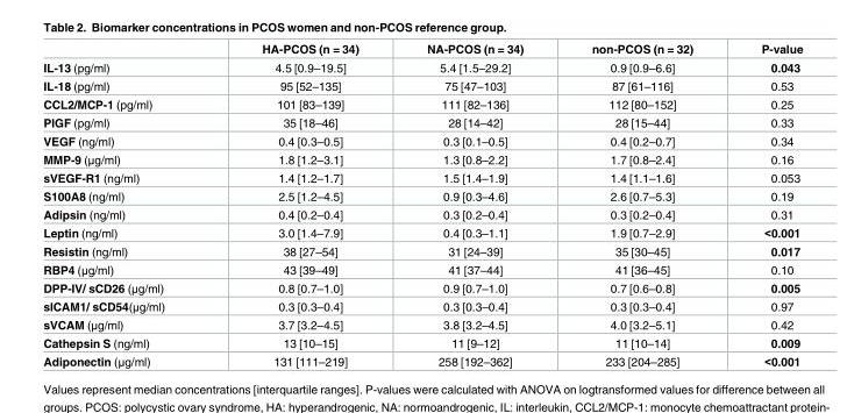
<table><thead><tr><td></td><td>HA-PCOS (n = 34)</td><td>NA-PCOS (n = 34)</td><td>non-PCOS (n = 32)</td><td>P-value</td></tr></thead><tbody><tr><td>IL-13 (pg/ml)</td><td>4.5 [0.9–19.5]</td><td>5.4 [1.5–29.2]</td><td>0.9 [0.9–6.6]</td><td>0.043</td></tr><tr><td>IL-18 (pg/ml)</td><td>95 [52–135]</td><td>75 [47–103]</td><td>87 [61–116]</td><td>0.53</td></tr><tr><td>CCL2/MCP-1 (pg/ml)</td><td>101 [83–139]</td><td>111 [82–136]</td><td>112 [80–152]</td><td>0.25</td></tr><tr><td>PIGF (pg/ml)</td><td>35 [18–46]</td><td>28 [14–42]</td><td>28 [15–44]</td><td>0.33</td></tr><tr><td>VEGF (ng/ml)</td><td>0.4 [0.3–0.5]</td><td>0.3 [0.1–0.5]</td><td>0.4 [0.2–0.7]</td><td>0.34</td></tr><tr><td>MMP-9 (μg/ml)</td><td>1.8 [1.2–3.1]</td><td>1.3 [0.8–2.2]</td><td>1.7 [0.8–2.4]</td><td>0.16</td></tr><tr><td>sVEGF-R1 (ng/ml)</td><td>1.4 [1.2–1.7]</td><td>1.5 [1.4–1.9]</td><td>1.4 [1.1–1.6]</td><td>0.053</td></tr><tr><td>S100A8 (ng/ml)</td><td>2.5 [1.2–4.5]</td><td>0.9 [0.3–4.6]</td><td>2.6 [0.7–5.3]</td><td>0.19</td></tr><tr><td>Adipsin (ng/ml)</td><td>0.4 [0.2–0.4]</td><td>0.3 [0.2–0.4]</td><td>0.3 [0.2–0.4]</td><td>0.31</td></tr><tr><td>Leptin (ng/ml)</td><td>3.0 [1.4–7.9]</td><td>0.4 [0.3–1.1]</td><td>1.9 [0.7–2.9]</td><td>&lt;0.001</td></tr><tr><td>Resistin (ng/ml)</td><td>38 [27–54]</td><td>31 [24–39]</td><td>35 [30–45]</td><td>0.017</td></tr><tr><td>RBP4 (μg/ml)</td><td>43 [39–49]</td><td>41 [37–44]</td><td>41 [36–45]</td><td>0.10</td></tr><tr><td>DPP-IV/ sCD26 (μg/ml)</td><td>0.8 [0.7–1.0]</td><td>0.9 [0.7–1.0]</td><td>0.7 [0.6–0.8]</td><td>0.005</td></tr><tr><td>sICAM1/ sCD54(μg/ml)</td><td>0.3 [0.3–0.4]</td><td>0.3 [0.3–0.4]</td><td>0.3 [0.3–0.4]</td><td>0.97</td></tr><tr><td>sVCAM (μg/ml)</td><td>3.7 [3.2–4.5]</td><td>3.8 [3.2–4.5]</td><td>4.0 [3.2–5.1]</td><td>0.42</td></tr><tr><td>Cathepsin S (ng/ml)</td><td>13 [10–15]</td><td>11 [9–12]</td><td>11 [10–14]</td><td>0.009</td></tr><tr><td>Adiponectin (μg/ml)</td><td>131 [111–219]</td><td>258 [192–362]</td><td>233 [204–285]</td><td>&lt;0.001</td></tr></tbody></table>